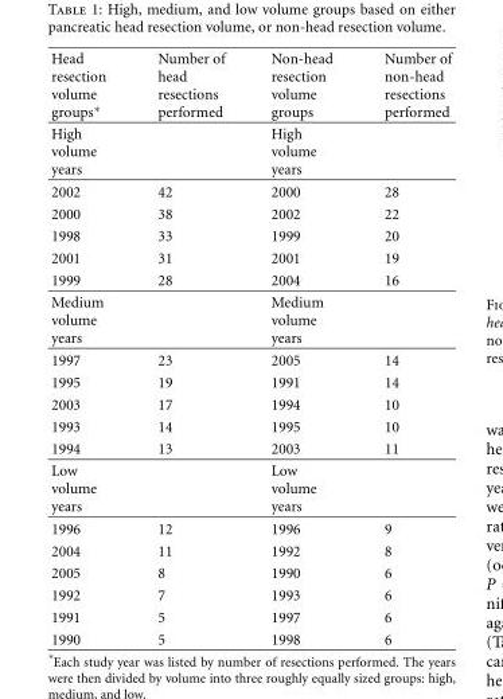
<table><thead><tr><td>Head resection volume groups∗</td><td>Number of head resections performed</td><td>Non-head resection volume groups</td><td>Number of non-head resections performed</td></tr></thead><tbody><tr><td>High volume years</td><td></td><td>High volume years</td><td></td></tr><tr><td>2002</td><td>42</td><td>2000</td><td>28</td></tr><tr><td>2000</td><td>38</td><td>2002</td><td>22</td></tr><tr><td>1998</td><td>33</td><td>1999</td><td>20</td></tr><tr><td>2001</td><td>31</td><td>2001</td><td>19</td></tr><tr><td>1999</td><td>28</td><td>2004</td><td>16</td></tr><tr><td>Medium volume years</td><td></td><td>Medium volume years</td><td></td></tr><tr><td>1997</td><td>23</td><td>2005</td><td>14</td></tr><tr><td>1995</td><td>19</td><td>1991</td><td>14</td></tr><tr><td>2003</td><td>17</td><td>1994</td><td>10</td></tr><tr><td>1993</td><td>14</td><td>1995</td><td>10</td></tr><tr><td>1994</td><td>13</td><td>2003</td><td>11</td></tr><tr><td>Low volume years</td><td></td><td>Low volume years</td><td></td></tr><tr><td>1996</td><td>12</td><td>1996</td><td>9</td></tr><tr><td>2004</td><td>11</td><td>1992</td><td>8</td></tr><tr><td>2005</td><td>8</td><td>1990</td><td>6</td></tr><tr><td>1992</td><td>7</td><td>1993</td><td>6</td></tr><tr><td>1991</td><td>5</td><td>1997</td><td>6</td></tr><tr><td>1990</td><td>5</td><td>1998</td><td>6</td></tr></tbody></table>